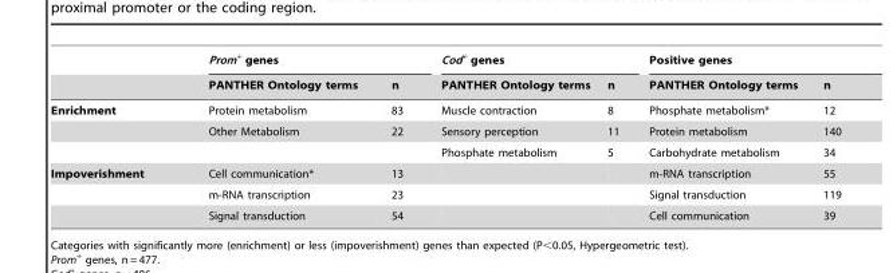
<table><thead><tr><td rowspan="2"></td><td colspan="2">Prom<sup>+</sup> genes</td><td colspan="2">Cod<sup>+</sup> genes</td><td colspan="2">Positive genes</td></tr><tr><td>PANTHER Ontology terms</td><td>n</td><td>PANTHER Ontology terms</td><td>n</td><td>PANTHER Ontology terms</td><td>n</td></tr></thead><tbody><tr><td rowspan="3">Enrichment</td><td>Protein metabolism</td><td>83</td><td>Muscle contraction</td><td>8</td><td>Phosphate metabolism*</td><td>12</td></tr><tr><td>Other Metabolism</td><td>22</td><td>Sensory perception</td><td>11</td><td>Protein metabolism</td><td>140</td></tr><tr><td></td><td></td><td>Phosphate metabolism</td><td>5</td><td>Carbohydrate metabolism</td><td>34</td></tr><tr><td rowspan="3">Impoverishment</td><td>Cell communication*</td><td>13</td><td></td><td></td><td>m-RNA transcription</td><td>55</td></tr><tr><td>m-RNA transcription</td><td>23</td><td></td><td></td><td>Signal transduction</td><td>119</td></tr><tr><td>Signal transduction</td><td>54</td><td></td><td></td><td>Cell communication</td><td>39</td></tr></tbody></table>